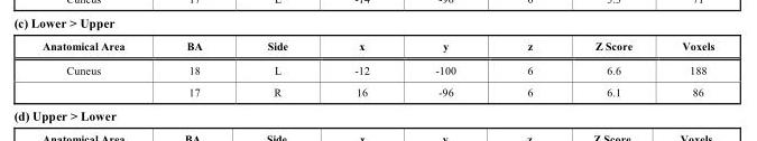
<table><thead><tr><td>Anatomical Area</td><td>BA</td><td>Side</td><td>x</td><td>y</td><td>z</td><td>Z Score</td><td>Voxels</td></tr></thead><tbody><tr><td rowspan="2">Cuneus �</td><td>18</td><td>L</td><td>-12</td><td>-100</td><td>6</td><td>6.6</td><td>188</td></tr><tr><td>17</td><td>R</td><td>16</td><td>-96</td><td>6</td><td>6.1</td><td>86</td></tr></tbody></table>